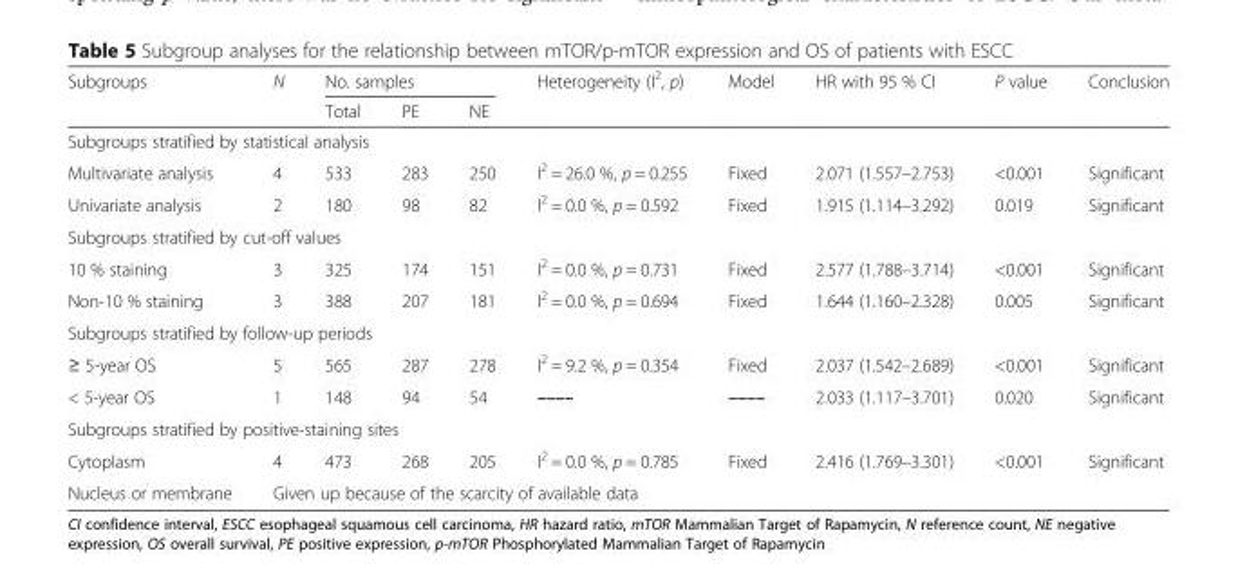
<table><thead><tr><td rowspan="2">Subgroups</td><td rowspan="2">N</td><td colspan="3">No. samples</td><td rowspan="2">Heterogeneity (I<sup>2</sup>, p)</td><td rowspan="2">Model</td><td rowspan="2">HR with 95 % CI</td><td rowspan="2">P value</td><td rowspan="2">Conclusion</td></tr><tr><td>Total</td><td>PE</td><td>NE</td></tr></thead><tbody><tr><td colspan="10">Subgroups stratified by statistical analysis</td></tr><tr><td>Multivariate analysis</td><td>4</td><td>533</td><td>283</td><td>250</td><td>I<sup>2</sup> = 26.0 %, p = 0.255</td><td>Fixed</td><td>2.071 (1.557–2.753)</td><td>&lt;0.001</td><td>Significant</td></tr><tr><td>Univariate analysis</td><td>2</td><td>180</td><td>98</td><td>82</td><td>I<sup>2</sup> = 0.0 %, p = 0.592</td><td>Fixed</td><td>1.915 (1.114–3.292)</td><td>0.019</td><td>Significant</td></tr><tr><td colspan="10">Subgroups stratified by cut-off values</td></tr><tr><td>10 % staining</td><td>3</td><td>325</td><td>174</td><td>151</td><td>I<sup>2</sup> = 0.0 %, p = 0.731</td><td>Fixed</td><td>2.577 (1.788–3.714)</td><td>&lt;0.001</td><td>Significant</td></tr><tr><td>Non-10 % staining</td><td>3</td><td>388</td><td>207</td><td>181</td><td>I<sup>2</sup> = 0.0 %, p = 0.694</td><td>Fixed</td><td>1.644 (1.160–2.328)</td><td>0.005</td><td>Significant</td></tr><tr><td colspan="10">Subgroups stratified by follow-up periods</td></tr><tr><td>≥ 5-year OS</td><td>5</td><td>565</td><td>287</td><td>278</td><td>I<sup>2</sup> = 9.2 %, p = 0.354</td><td>Fixed</td><td>2.037 (1.542–2.689)</td><td>&lt;0.001</td><td>Significant</td></tr><tr><td>&lt; 5-year OS</td><td>1</td><td>148</td><td>94</td><td>54</td><td>––––</td><td>––––</td><td>2.033 (1.117–3.701)</td><td>0.020</td><td>Significant</td></tr><tr><td colspan="10">Subgroups stratified by positive-staining sites</td></tr><tr><td>Cytoplasm</td><td>4</td><td>473</td><td>268</td><td>205</td><td>I<sup>2</sup> = 0.0 %, p = 0.785</td><td>Fixed</td><td>2.416 (1.769–3.301)</td><td>&lt;0.001</td><td>Significant</td></tr><tr><td>Nucleus or membrane</td><td colspan="9">Given up because of the scarcity of available data</td></tr></tbody></table>